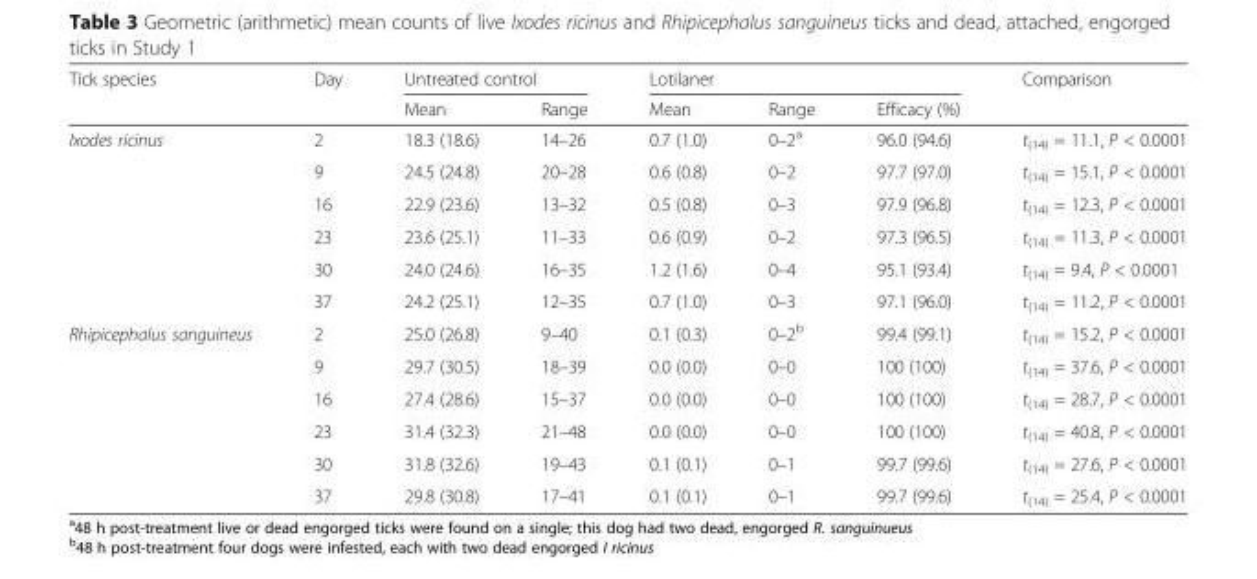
<table><thead><tr><td rowspan="2">Tick species</td><td rowspan="2">Day</td><td colspan="2">Untreated control</td><td colspan="3">Lotilaner</td><td rowspan="2">Comparison</td></tr><tr><td>Mean</td><td>Range</td><td>Mean</td><td>Range</td><td>Efficacy (%)</td></tr></thead><tbody><tr><td rowspan="6">Ixodes ricinus</td><td>2</td><td>18.3 (18.6)</td><td>14–26</td><td>0.7 (1.0)</td><td>0–2<sup>a</sup></td><td>96.0 (94.6)</td><td>t<sub>(14)</sub> = 11.1, P &lt; 0.0001</td></tr><tr><td>9</td><td>24.5 (24.8)</td><td>20–28</td><td>0.6 (0.8)</td><td>0–2</td><td>97.7 (97.0)</td><td>t<sub>(14)</sub> = 15.1, P &lt; 0.0001</td></tr><tr><td>16</td><td>22.9 (23.6)</td><td>13–32</td><td>0.5 (0.8)</td><td>0–3</td><td>97.9 (96.8)</td><td>t<sub>(14)</sub> = 12.3, P &lt; 0.0001</td></tr><tr><td>23</td><td>23.6 (25.1)</td><td>11–33</td><td>0.6 (0.9)</td><td>0–2</td><td>97.3 (96.5)</td><td>t<sub>(14)</sub> = 11.3, P &lt; 0.0001</td></tr><tr><td>30</td><td>24.0 (24.6)</td><td>16–35</td><td>1.2 (1.6)</td><td>0–4</td><td>95.1 (93.4)</td><td>t<sub>(14)</sub> = 9.4, P &lt; 0.0001</td></tr><tr><td>37</td><td>24.2 (25.1)</td><td>12–35</td><td>0.7 (1.0)</td><td>0–3</td><td>97.1 (96.0)</td><td>t<sub>(14)</sub> = 11.2, P &lt; 0.0001</td></tr><tr><td rowspan="6">Rhipicephalus sanguineus</td><td>2</td><td>25.0 (26.8)</td><td>9–40</td><td>0.1 (0.3)</td><td>0–2<sup>b</sup></td><td>99.4 (99.1)</td><td>t<sub>(14)</sub> = 15.2, P &lt; 0.0001</td></tr><tr><td>9</td><td>29.7 (30.5)</td><td>18–39</td><td>0.0 (0.0)</td><td>0–0</td><td>100 (100)</td><td>t<sub>(14)</sub> = 37.6, P &lt; 0.0001</td></tr><tr><td>16</td><td>27.4 (28.6)</td><td>15–37</td><td>0.0 (0.0)</td><td>0–0</td><td>100 (100)</td><td>t<sub>(14)</sub> = 28.7, P &lt; 0.0001</td></tr><tr><td>23</td><td>31.4 (32.3)</td><td>21–48</td><td>0.0 (0.0)</td><td>0–0</td><td>100 (100)</td><td>t<sub>(14)</sub> = 40.8, P &lt; 0.0001</td></tr><tr><td>30</td><td>31.8 (32.6)</td><td>19–43</td><td>0.1 (0.1)</td><td>0–1</td><td>99.7 (99.6)</td><td>t<sub>(14)</sub> = 27.6, P &lt; 0.0001</td></tr><tr><td>37</td><td>29.8 (30.8)</td><td>17–41</td><td>0.1 (0.1)</td><td>0–1</td><td>99.7 (99.6)</td><td>t<sub>(14)</sub> = 25.4, P &lt; 0.0001</td></tr></tbody></table>